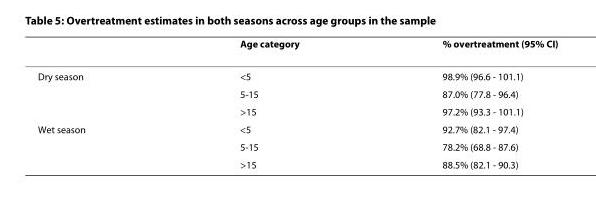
<table><thead><tr><td></td><td>Age category</td><td>% overtreatment (95% CI)</td></tr></thead><tbody><tr><td rowspan="3">Dry season</td><td>&lt;5</td><td>98.9% (96.6 - 101.1)</td></tr><tr><td>5-15</td><td>87.0% (77.8 - 96.4)</td></tr><tr><td>&gt;15</td><td>97.2% (93.3 - 101.1)</td></tr><tr><td rowspan="3">Wet season</td><td>&lt;5</td><td>92.7% (82.1 - 97.4)</td></tr><tr><td>5-15</td><td>78.2% (68.8 - 87.6)</td></tr><tr><td>&gt;15</td><td>88.5% (82.1 - 90.3)</td></tr></tbody></table>